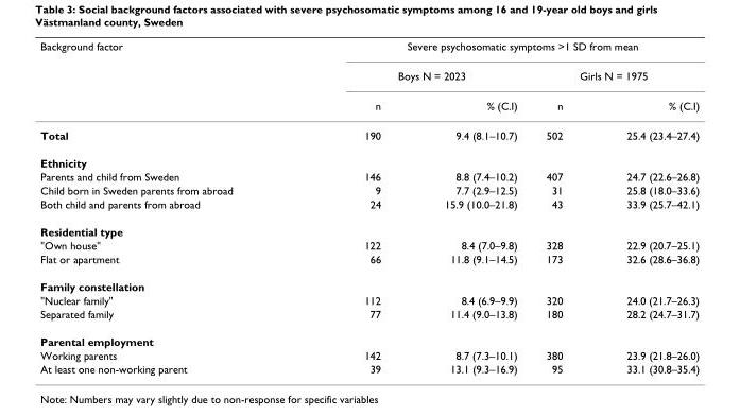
<table><thead><tr><td rowspan="3">Background factor</td><td colspan="4">Severe psychosomatic symptoms &gt;1 SD from mean</td></tr><tr><td colspan="2">Boys N = 2023</td><td colspan="2">Girls N = 1975</td></tr><tr><td>n</td><td>% (C.I)</td><td>n</td><td>% (C.I)</td></tr></thead><tbody><tr><td>Total</td><td>190</td><td>9.4 (8.1–10.7)</td><td>502</td><td>25.4 (23.4–27.4)</td></tr><tr><td colspan="5">Ethnicity</td></tr><tr><td>Parents and child from Sweden</td><td>146</td><td>8.8 (7.4–10.2)</td><td>407</td><td>24.7 (22.6–26.8)</td></tr><tr><td>Child born in Sweden parents from abroad</td><td>9</td><td>7.7 (2.9–12.5)</td><td>31</td><td>25.8 (18.0–33.6)</td></tr><tr><td>Both child and parents from abroad</td><td>24</td><td>15.9 (10.0–21.8)</td><td>43</td><td>33.9 (25.7–42.1)</td></tr><tr><td colspan="5">Residential type</td></tr><tr><td>&quot;Own house&quot;</td><td>122</td><td>8.4 (7.0–9.8)</td><td>328</td><td>22.9 (20.7–25.1)</td></tr><tr><td>Flat or apartment</td><td>66</td><td>11.8 (9.1–14.5)</td><td>173</td><td>32.6 (28.6–36.8)</td></tr><tr><td colspan="5">Family constellation</td></tr><tr><td>&quot;Nuclear family&quot;</td><td>112</td><td>8.4 (6.9–9.9)</td><td>320</td><td>24.0 (21.7–26.3)</td></tr><tr><td>Separated family</td><td>77</td><td>11.4 (9.0–13.8)</td><td>180</td><td>28.2 (24.7–31.7)</td></tr><tr><td colspan="5">Parental employment</td></tr><tr><td>Working parents</td><td>142</td><td>8.7 (7.3–10.1)</td><td>380</td><td>23.9 (21.8–26.0)</td></tr><tr><td>At least one non-working parent</td><td>39</td><td>13.1 (9.3–16.9)</td><td>95</td><td>33.1 (30.8–35.4)</td></tr></tbody></table>